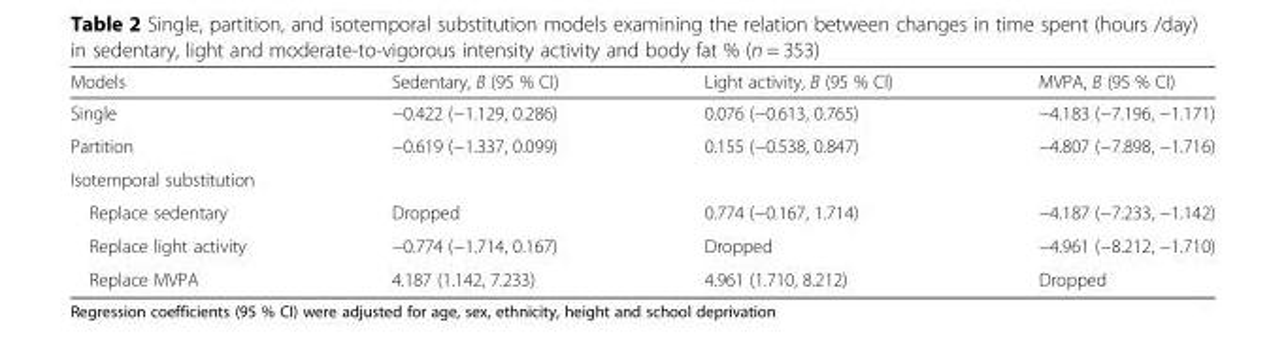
<table><thead><tr><td>Models</td><td>Sedentary, B (95 % CI)</td><td>Light activity, B (95 % CI)</td><td>MVPA, B (95 % CI)</td></tr></thead><tbody><tr><td>Single</td><td>−0.422 (−1.129, 0.286)</td><td>0.076 (−0.613, 0.765)</td><td>−4.183 (−7.196, −1.171)</td></tr><tr><td>Partition</td><td>−0.619 (−1.337, 0.099)</td><td>0.155 (−0.538, 0.847)</td><td>−4.807 (−7.898, −1.716)</td></tr><tr><td colspan="4">Isotemporal substitution</td></tr><tr><td>Replace sedentary</td><td>Dropped</td><td>0.774 (−0.167, 1.714)</td><td>−4.187 (−7.233, −1.142)</td></tr><tr><td>Replace light activity</td><td>−0.774 (−1.714, 0.167)</td><td>Dropped</td><td>−4.961 (−8.212, −1.710)</td></tr><tr><td>Replace MVPA</td><td>4.187 (1.142, 7.233)</td><td>4.961 (1.710, 8.212)</td><td>Dropped</td></tr></tbody></table>